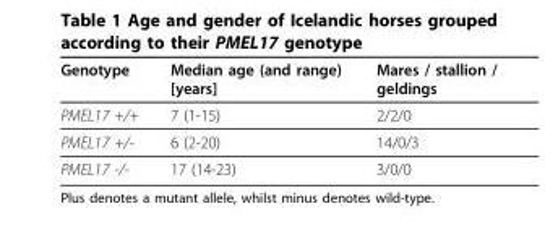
<table><thead><tr><td>Genotype</td><td>Median age (and range) [years]</td><td>Mares / stallion / geldings</td></tr></thead><tbody><tr><td>PMEL17 +/+</td><td>7 (1-15)</td><td>2/2/0</td></tr><tr><td>PMEL17 +/-</td><td>6 (2-20)</td><td>14/0/3</td></tr><tr><td>PMEL17 -/-</td><td>17 (14-23)</td><td>3/0/0</td></tr></tbody></table>